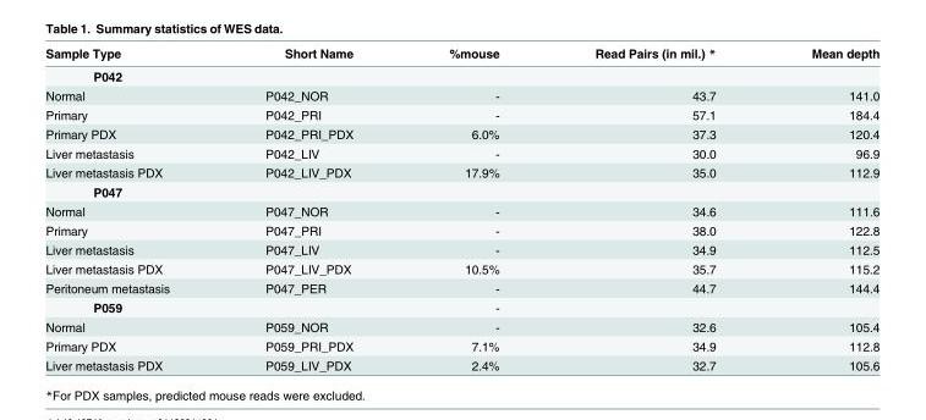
<table><thead><tr><td>Sample Type</td><td>Short Name</td><td>%mouse</td><td>Read Pairs (in mil.) *</td><td>Mean depth</td></tr></thead><tbody><tr><td colspan="5">P042</td></tr><tr><td>Normal</td><td>P042_NOR</td><td>-</td><td>43.7</td><td>141.0</td></tr><tr><td>Primary</td><td>P042_PRI</td><td>-</td><td>57.1</td><td>184.4</td></tr><tr><td>Primary PDX</td><td>P042_PRI_PDX</td><td>6.0%</td><td>37.3</td><td>120.4</td></tr><tr><td>Liver metastasis</td><td>P042_LIV</td><td>-</td><td>30.0</td><td>96.9</td></tr><tr><td>Liver metastasis PDX</td><td>P042_LIV_PDX</td><td>17.9%</td><td>35.0</td><td>112.9</td></tr><tr><td colspan="5">P047</td></tr><tr><td>Normal</td><td>P047_NOR</td><td>-</td><td>34.6</td><td>111.6</td></tr><tr><td>Primary</td><td>P047_PRI</td><td>-</td><td>38.0</td><td>122.8</td></tr><tr><td>Liver metastasis</td><td>P047_LIV</td><td>-</td><td>34.9</td><td>112.5</td></tr><tr><td>Liver metastasis PDX</td><td>P047_LIV_PDX</td><td>10.5%</td><td>35.7</td><td>115.2</td></tr><tr><td>Peritoneum metastasis</td><td>P047_PER</td><td>-</td><td>44.7</td><td>144.4</td></tr><tr><td>P059</td><td></td><td>-</td><td></td><td></td></tr><tr><td>Normal</td><td>P059_NOR</td><td>-</td><td>32.6</td><td>105.4</td></tr><tr><td>Primary PDX</td><td>P059_PRI_PDX</td><td>7.1%</td><td>34.9</td><td>112.8</td></tr><tr><td>Liver metastasis PDX</td><td>P059_LIV_PDX</td><td>2.4%</td><td>32.7</td><td>105.6</td></tr></tbody></table>